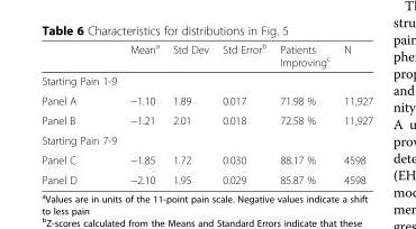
<table><thead><tr><td></td><td>Mean<sup>a</sup></td><td>Std Dev</td><td>Std Error<sup>b</sup></td><td>Patients Improving<sup>c</sup></td><td>N</td></tr></thead><tbody><tr><td colspan="6">Starting Pain 1-9</td></tr><tr><td>Panel A</td><td>−1.10</td><td>1.89</td><td>0.017</td><td>71.98 %</td><td>11,927</td></tr><tr><td>Panel B</td><td>−1.21</td><td>2.01</td><td>0.018</td><td>72.58 %</td><td>11,927</td></tr><tr><td colspan="6">Starting Pain 7-9</td></tr><tr><td>Panel C</td><td>−1.85</td><td>1.72</td><td>0.030</td><td>88.17 %</td><td>4598</td></tr><tr><td>Panel D</td><td>−2.10</td><td>1.95</td><td>0.029</td><td>85.87 %</td><td>4598</td></tr></tbody></table>